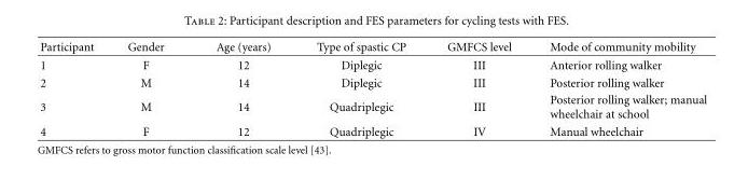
<table><thead><tr><td>Participant</td><td>Gender</td><td>Age (years)</td><td>Type of spastic CP</td><td>GMFCS level</td><td>Mode of community mobility</td></tr></thead><tbody><tr><td>1</td><td>F</td><td>12</td><td>Diplegic</td><td>III</td><td>Anterior rolling walker</td></tr><tr><td>2</td><td>M</td><td>14</td><td>Diplegic</td><td>III</td><td>Posterior rolling walker</td></tr><tr><td>3</td><td>M</td><td>14</td><td>Quadriplegic</td><td>III</td><td>Posterior rolling walker; manual wheelchair at school</td></tr><tr><td>4</td><td>F</td><td>12</td><td>Quadriplegic</td><td>IV</td><td>Manual wheelchair</td></tr></tbody></table>